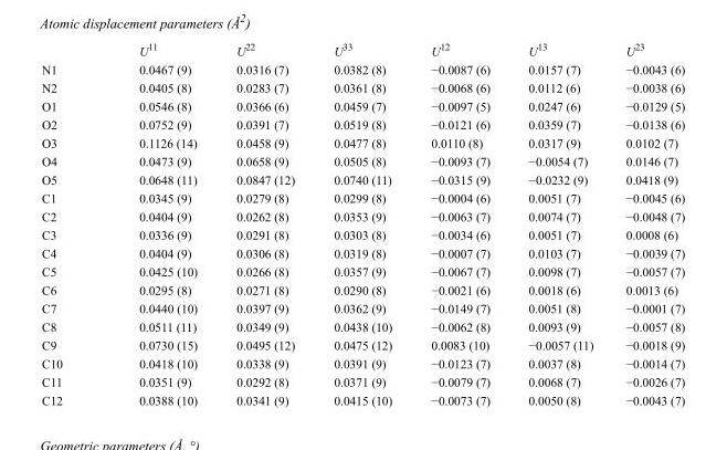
<table><thead><tr><td></td><td>U<sup>11</sup></td><td>U<sup>22</sup></td><td>U<sup>33</sup></td><td>U<sup>12</sup></td><td>U<sup>13</sup></td><td>U<sup>23</sup></td></tr></thead><tbody><tr><td>N1</td><td>0.0467 (9)</td><td>0.0316 (7)</td><td>0.0382 (8)</td><td>−0.0087 (6)</td><td>0.0157 (7)</td><td>−0.0043 (6)</td></tr><tr><td>N2</td><td>0.0405 (8)</td><td>0.0283 (7)</td><td>0.0361 (8)</td><td>−0.0068 (6)</td><td>0.0112 (6)</td><td>−0.0038 (6)</td></tr><tr><td>O1</td><td>0.0546 (8)</td><td>0.0366 (6)</td><td>0.0459 (7)</td><td>−0.0097 (5)</td><td>0.0247 (6)</td><td>−0.0129 (5)</td></tr><tr><td>O2</td><td>0.0752 (9)</td><td>0.0391 (7)</td><td>0.0519 (8)</td><td>−0.0121 (6)</td><td>0.0359 (7)</td><td>−0.0138 (6)</td></tr><tr><td>O3</td><td>0.1126 (14)</td><td>0.0458 (9)</td><td>0.0477 (8)</td><td>0.0110 (8)</td><td>0.0317 (9)</td><td>0.0102 (7)</td></tr><tr><td>O4</td><td>0.0473 (9)</td><td>0.0658 (9)</td><td>0.0505 (8)</td><td>−0.0093 (7)</td><td>−0.0054 (7)</td><td>0.0146 (7)</td></tr><tr><td>O5</td><td>0.0648 (11)</td><td>0.0847 (12)</td><td>0.0740 (11)</td><td>−0.0315 (9)</td><td>−0.0232 (9)</td><td>0.0418 (9)</td></tr><tr><td>C1</td><td>0.0345 (9)</td><td>0.0279 (8)</td><td>0.0299 (8)</td><td>−0.0004 (6)</td><td>0.0051 (7)</td><td>−0.0045 (6)</td></tr><tr><td>C2</td><td>0.0404 (9)</td><td>0.0262 (8)</td><td>0.0353 (9)</td><td>−0.0063 (7)</td><td>0.0074 (7)</td><td>−0.0048 (7)</td></tr><tr><td>C3</td><td>0.0336 (9)</td><td>0.0291 (8)</td><td>0.0303 (8)</td><td>−0.0034 (6)</td><td>0.0051 (7)</td><td>0.0008 (6)</td></tr><tr><td>C4</td><td>0.0404 (9)</td><td>0.0306 (8)</td><td>0.0319 (8)</td><td>−0.0007 (7)</td><td>0.0103 (7)</td><td>−0.0039 (7)</td></tr><tr><td>C5</td><td>0.0425 (10)</td><td>0.0266 (8)</td><td>0.0357 (9)</td><td>−0.0067 (7)</td><td>0.0098 (7)</td><td>−0.0057 (7)</td></tr><tr><td>C6</td><td>0.0295 (8)</td><td>0.0271 (8)</td><td>0.0290 (8)</td><td>−0.0021 (6)</td><td>0.0018 (6)</td><td>0.0013 (6)</td></tr><tr><td>C7</td><td>0.0440 (10)</td><td>0.0397 (9)</td><td>0.0362 (9)</td><td>−0.0149 (7)</td><td>0.0051 (8)</td><td>−0.0001 (7)</td></tr><tr><td>C8</td><td>0.0511 (11)</td><td>0.0349 (9)</td><td>0.0438 (10)</td><td>−0.0062 (8)</td><td>0.0093 (9)</td><td>−0.0057 (8)</td></tr><tr><td>C9</td><td>0.0730 (15)</td><td>0.0495 (12)</td><td>0.0475 (12)</td><td>0.0083 (10)</td><td>−0.0057 (11)</td><td>−0.0018 (9)</td></tr><tr><td>C10</td><td>0.0418 (10)</td><td>0.0338 (9)</td><td>0.0391 (9)</td><td>−0.0123 (7)</td><td>0.0037 (8)</td><td>−0.0014 (7)</td></tr><tr><td>C11</td><td>0.0351 (9)</td><td>0.0292 (8)</td><td>0.0371 (9)</td><td>−0.0079 (7)</td><td>0.0068 (7)</td><td>−0.0026 (7)</td></tr><tr><td>C12</td><td>0.0388 (10)</td><td>0.0341 (9)</td><td>0.0415 (10)</td><td>−0.0073 (7)</td><td>0.0050 (8)</td><td>−0.0043 (7)</td></tr></tbody></table>